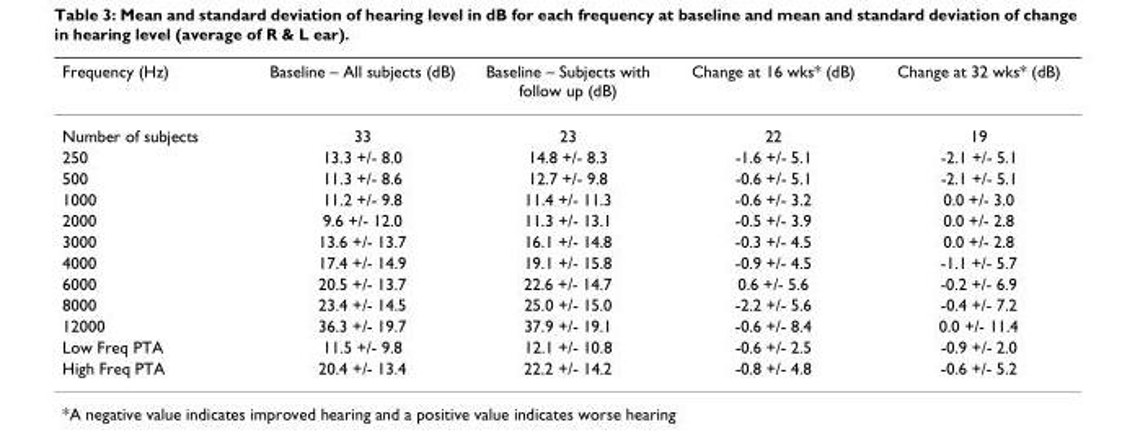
<table><thead><tr><td>Frequency (Hz)</td><td>Baseline – All subjects (dB)</td><td>Baseline – Subjects with follow up (dB)</td><td>Change at 16 wks* (dB)</td><td>Change at 32 wks* (dB)</td></tr></thead><tbody><tr><td>Number of subjects</td><td>33</td><td>23</td><td>22</td><td>19</td></tr><tr><td>250</td><td>13.3 +/- 8.0</td><td>14.8 +/- 8.3</td><td>-1.6 +/- 5.1</td><td>-2.1 +/- 5.1</td></tr><tr><td>500</td><td>11.3 +/- 8.6</td><td>12.7 +/- 9.8</td><td>-0.6 +/- 5.1</td><td>-2.1 +/- 5.1</td></tr><tr><td>1000</td><td>11.2 +/- 9.8</td><td>11.4 +/- 11.3</td><td>-0.6 +/- 3.2</td><td>0.0 +/- 3.0</td></tr><tr><td>2000</td><td>9.6 +/- 12.0</td><td>11.3 +/- 13.1</td><td>-0.5 +/- 3.9</td><td>0.0 +/- 2.8</td></tr><tr><td>3000</td><td>13.6 +/- 13.7</td><td>16.1 +/- 14.8</td><td>-0.3 +/- 4.5</td><td>0.0 +/- 2.8</td></tr><tr><td>4000</td><td>17.4 +/- 14.9</td><td>19.1 +/- 15.8</td><td>-0.9 +/- 4.5</td><td>-1.1 +/- 5.7</td></tr><tr><td>6000</td><td>20.5 +/- 13.7</td><td>22.6 +/- 14.7</td><td>0.6 +/- 5.6</td><td>-0.2 +/- 6.9</td></tr><tr><td>8000</td><td>23.4 +/- 14.5</td><td>25.0 +/- 15.0</td><td>-2.2 +/- 5.6</td><td>-0.4 +/- 7.2</td></tr><tr><td>12000</td><td>36.3 +/- 19.7</td><td>37.9 +/- 19.1</td><td>-0.6 +/- 8.4</td><td>0.0 +/- 11.4</td></tr><tr><td>Low Freq PTA</td><td>11.5 +/- 9.8</td><td>12.1 +/- 10.8</td><td>-0.6 +/- 2.5</td><td>-0.9 +/- 2.0</td></tr><tr><td>High Freq PTA</td><td>20.4 +/- 13.4</td><td>22.2 +/- 14.2</td><td>-0.8 +/- 4.8</td><td>-0.6 +/- 5.2</td></tr></tbody></table>